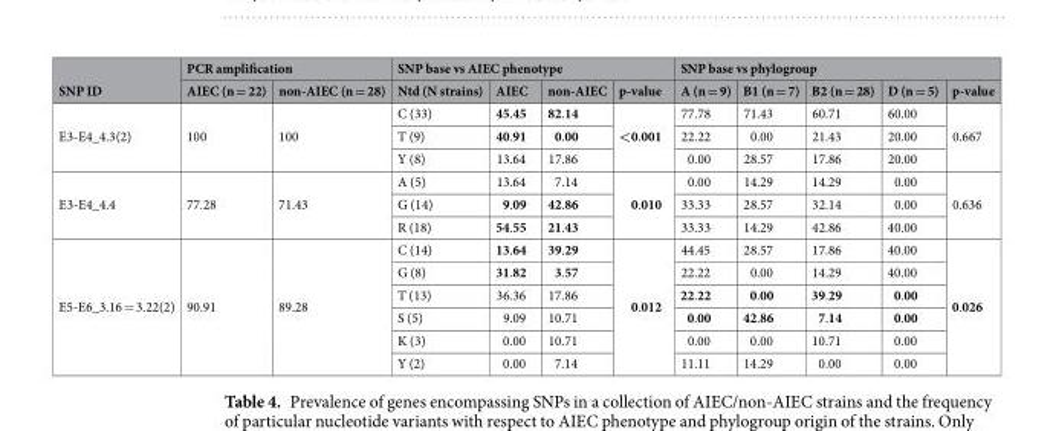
<table><thead><tr><td rowspan="2">SNP ID</td><td colspan="2">PCR amplification</td><td colspan="4">SNP base vs AIEC phenotype</td><td colspan="5">SNP base vs phylogroup</td></tr><tr><td>AIEC (n = 22)</td><td>non-AIEC (n = 28)</td><td>Ntd (N strains)</td><td>AIEC</td><td>non-AIEC</td><td>p-value</td><td>A (n = 9)</td><td>B1 (n = 7)</td><td>B2 (n = 28)</td><td>D (n = 5)</td><td>p-value</td></tr></thead><tbody><tr><td rowspan="3">E3-E4_4.3(2)</td><td rowspan="3">100</td><td rowspan="3">100</td><td>C (33)</td><td>45.45</td><td>82.14</td><td rowspan="3">&lt;0.001</td><td>77.78</td><td>71.43</td><td>60.71</td><td>60.00</td><td rowspan="3">0.667</td></tr><tr><td>T (9)</td><td>40.91</td><td>0.00</td><td>22.22</td><td>0.00</td><td>21.43</td><td>20.00</td></tr><tr><td>Y (8)</td><td>13.64</td><td>17.86</td><td>0.00</td><td>28.57</td><td>17.86</td><td>20.00</td></tr><tr><td rowspan="3">E3-E4_4.4</td><td rowspan="3">77.28</td><td rowspan="3">71.43</td><td>A (5)</td><td>13.64</td><td>7.14</td><td rowspan="3">0.010</td><td>0.00</td><td>14.29</td><td>14.29</td><td>0.00</td><td rowspan="3">0.636</td></tr><tr><td>G (14)</td><td>9.09</td><td>42.86</td><td>33.33</td><td>28.57</td><td>32.14</td><td>0.00</td></tr><tr><td>R (18)</td><td>54.55</td><td>21.43</td><td>33.33</td><td>14.29</td><td>42.86</td><td>40.00</td></tr><tr><td rowspan="6">E5-E6_3.16 = 3.22(2)</td><td rowspan="6">90.91</td><td rowspan="6">89.28</td><td>C (14)</td><td>13.64</td><td>39.29</td><td rowspan="6">0.012</td><td>44.45</td><td>28.57</td><td>17.86</td><td>40.00</td><td rowspan="6">0.026</td></tr><tr><td>G (8)</td><td>31.82</td><td>3.57</td><td>22.22</td><td>0.00</td><td>14.29</td><td>40.00</td></tr><tr><td>T (13)</td><td>36.36</td><td>17.86</td><td>22.22</td><td>0.00</td><td>39.29</td><td>0.00</td></tr><tr><td>S (5)</td><td>9.09</td><td>10.71</td><td>0.00</td><td>42.86</td><td>7.14</td><td>0.00</td></tr><tr><td>K (3)</td><td>0.00</td><td>10.71</td><td>0.00</td><td>0.00</td><td>10.71</td><td>0.00</td></tr><tr><td>Y (2)</td><td>0.00</td><td>7.14</td><td>11.11</td><td>14.29</td><td>0.00</td><td>0.00</td></tr></tbody></table>